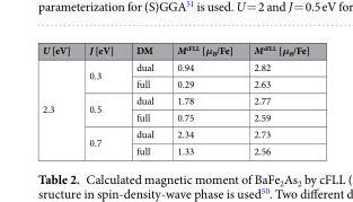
<table><thead><tr><td>U [eV]</td><td>J [eV]</td><td>DM</td><td>M<sup>cFLL</sup> [μ<sub>B</sub>/Fe]</td><td>M<sup>sFLL</sup> [μ<sub>B</sub>/Fe]</td></tr></thead><tbody><tr><td rowspan="6">2.3</td><td rowspan="2">0.3</td><td>dual</td><td>0.94</td><td>2.82</td></tr><tr><td>full</td><td>0.29</td><td>2.63</td></tr><tr><td rowspan="2">0.5</td><td>dual</td><td>1.78</td><td>2.77</td></tr><tr><td>full</td><td>0.75</td><td>2.59</td></tr><tr><td rowspan="2">0.7</td><td>dual</td><td>2.34</td><td>2.73</td></tr><tr><td>full</td><td>1.33</td><td>2.56</td></tr></tbody></table>